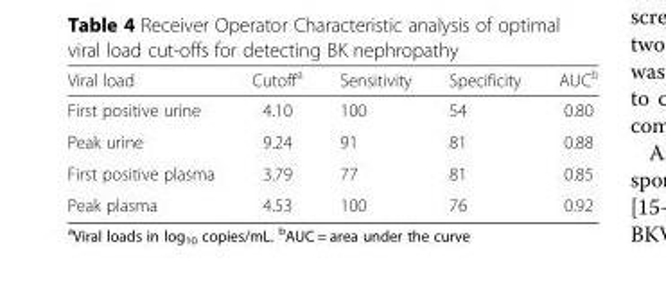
<table><thead><tr><td>Viral load</td><td>Cutoff<sup>a</sup></td><td>Sensitivity</td><td>Specificity</td><td>AUC<sup>b</sup></td></tr></thead><tbody><tr><td>First positive urine</td><td>4.10</td><td>100</td><td>54</td><td>0.80</td></tr><tr><td>Peak urine</td><td>9.24</td><td>91</td><td>81</td><td>0.88</td></tr><tr><td>First positive plasma</td><td>3.79</td><td>77</td><td>81</td><td>0.85</td></tr><tr><td>Peak plasma</td><td>4.53</td><td>100</td><td>76</td><td>0.92</td></tr></tbody></table>